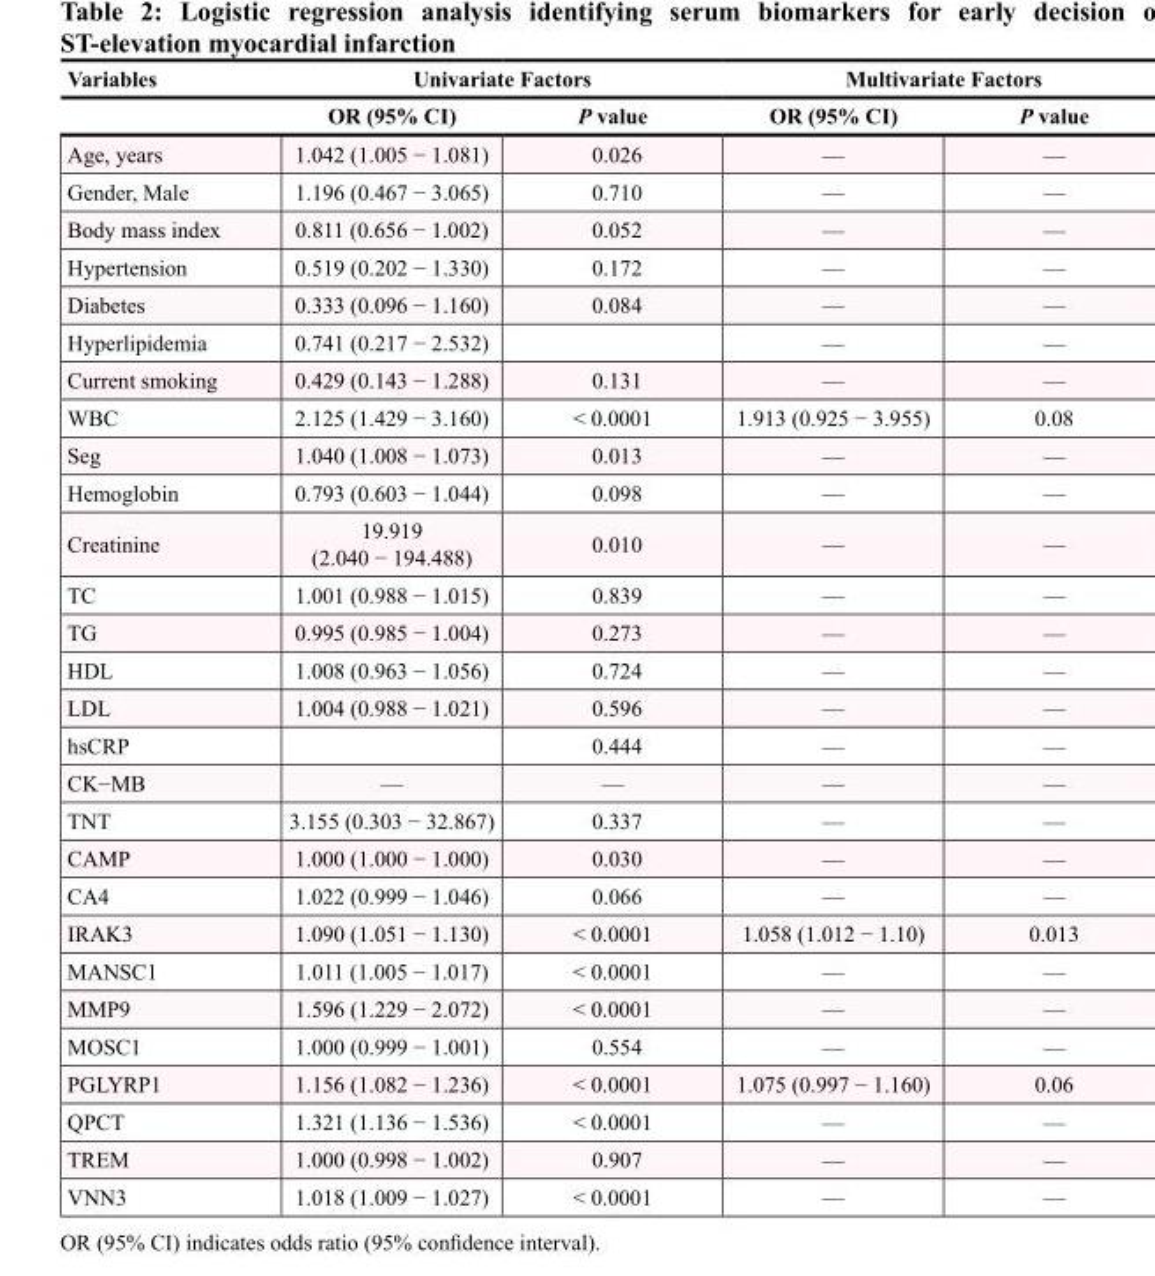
<table><thead><tr><td rowspan="2">Variables</td><td colspan="2">Univariate Factors</td><td colspan="2">Multivariate Factors</td></tr><tr><td>OR (95% CI)</td><td>P value</td><td>OR (95% CI)</td><td>P value</td></tr></thead><tbody><tr><td>Age, years</td><td>1.042 (1.005 − 1.081)</td><td>0.026</td><td>—</td><td>—</td></tr><tr><td>Gender, Male</td><td>1.196 (0.467 − 3.065)</td><td>0.710</td><td>—</td><td>—</td></tr><tr><td>Body mass index</td><td>0.811 (0.656 − 1.002)</td><td>0.052</td><td>—</td><td>—</td></tr><tr><td>Hypertension</td><td>0.519 (0.202 − 1.330)</td><td>0.172</td><td>—</td><td>—</td></tr><tr><td>Diabetes</td><td>0.333 (0.096 − 1.160)</td><td>0.084</td><td>—</td><td>—</td></tr><tr><td>Hyperlipidemia</td><td>0.741 (0.217 − 2.532)</td><td></td><td>—</td><td>—</td></tr><tr><td>Current smoking</td><td>0.429 (0.143 − 1.288)</td><td>0.131</td><td>—</td><td>—</td></tr><tr><td>WBC</td><td>2.125 (1.429 − 3.160)</td><td>&lt; 0.0001</td><td>1.913 (0.925 − 3.955)</td><td>0.08</td></tr><tr><td>Seg</td><td>1.040 (1.008 − 1.073)</td><td>0.013</td><td>—</td><td>—</td></tr><tr><td>Hemoglobin</td><td>0.793 (0.603 − 1.044)</td><td>0.098</td><td>—</td><td>—</td></tr><tr><td>Creatinine</td><td>19.919 (2.040 − 194.488)</td><td>0.010</td><td>—</td><td>—</td></tr><tr><td>TC</td><td>1.001 (0.988 − 1.015)</td><td>0.839</td><td>—</td><td>—</td></tr><tr><td>TG</td><td>0.995 (0.985 − 1.004)</td><td>0.273</td><td>—</td><td>—</td></tr><tr><td>HDL</td><td>1.008 (0.963 − 1.056)</td><td>0.724</td><td>—</td><td>—</td></tr><tr><td>LDL</td><td>1.004 (0.988 − 1.021)</td><td>0.596</td><td>—</td><td>—</td></tr><tr><td>hsCRP</td><td></td><td>0.444</td><td>—</td><td>—</td></tr><tr><td>CK−MB</td><td>—</td><td>—</td><td>—</td><td>—</td></tr><tr><td>TNT</td><td>3.155 (0.303 − 32.867)</td><td>0.337</td><td>—</td><td>—</td></tr><tr><td>CAMP</td><td>1.000 (1.000 − 1.000)</td><td>0.030</td><td>—</td><td>—</td></tr><tr><td>CA4</td><td>1.022 (0.999 − 1.046)</td><td>0.066</td><td>—</td><td>—</td></tr><tr><td>IRAK3</td><td>1.090 (1.051 − 1.130)</td><td>&lt; 0.0001</td><td>1.058 (1.012 − 1.10)</td><td>0.013</td></tr><tr><td>MANSC1</td><td>1.011 (1.005 − 1.017)</td><td>&lt; 0.0001</td><td>—</td><td>—</td></tr><tr><td>MMP9</td><td>1.596 (1.229 − 2.072)</td><td>&lt; 0.0001</td><td>—</td><td>—</td></tr><tr><td>MOSC1</td><td>1.000 (0.999 − 1.001)</td><td>0.554</td><td>—</td><td>—</td></tr><tr><td>PGLYRP1</td><td>1.156 (1.082 − 1.236)</td><td>&lt; 0.0001</td><td>1.075 (0.997 − 1.160)</td><td>0.06</td></tr><tr><td>QPCT</td><td>1.321 (1.136 − 1.536)</td><td>&lt; 0.0001</td><td>—</td><td>—</td></tr><tr><td>TREM</td><td>1.000 (0.998 − 1.002)</td><td>0.907</td><td>—</td><td>—</td></tr><tr><td>VNN3</td><td>1.018 (1.009 − 1.027)</td><td>&lt; 0.0001</td><td>—</td><td>—</td></tr></tbody></table>